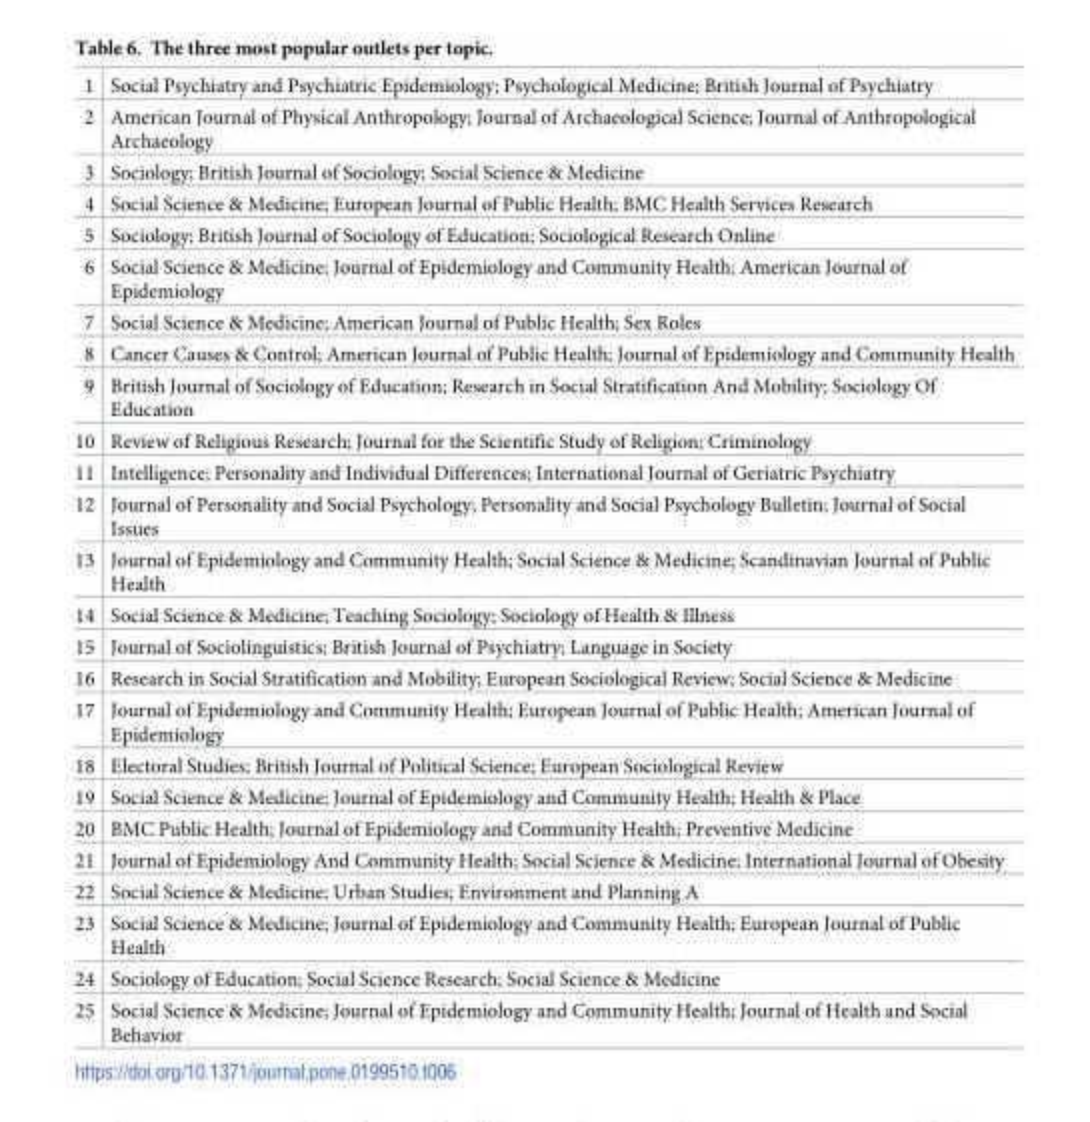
<table><tbody><tr><td>1</td><td>Social Psychiatry and Psychiatric Epidemiology; Psychological Medicine; British Journal of Psychiatry</td></tr><tr><td>2</td><td>American Journal of Physical Anthropology; Journal of Archaeological Science; Journal of Anthropological Archaeology</td></tr><tr><td>3</td><td>Sociology; British Journal of Sociology; Social Science &amp; Medicine</td></tr><tr><td>4</td><td>Social Science &amp; Medicine; European Journal of Public Health; BMC Health Services Research</td></tr><tr><td>5</td><td>Sociology; British Journal of Sociology of Education; Sociological Research Online</td></tr><tr><td>6</td><td>Social Science &amp; Medicine; Journal of Epidemiology and Community Health; American Journal of Epidemiology</td></tr><tr><td>7</td><td>Social Science &amp; Medicine; American Journal of Public Health; Sex Roles</td></tr><tr><td>8</td><td>Cancer Causes &amp; Control; American Journal of Public Health; Journal of Epidemiology and Community Health</td></tr><tr><td>9</td><td>British Journal of Sociology of Education; Research in Social Stratification And Mobility; Sociology Of Education</td></tr><tr><td>10</td><td>Review of Religious Research; Journal for the Scientific Study of Religion; Criminology</td></tr><tr><td>11</td><td>Intelligence; Personality and Individual Differences; International Journal of Geriatric Psychiatry</td></tr><tr><td>12</td><td>Journal of Personality and Social Psychology; Personality and Social Psychology Bulletin; Journal of Social Issues</td></tr><tr><td>13</td><td>Journal of Epidemiology and Community Health; Social Science &amp; Medicine; Scandinavian Journal of Public Health</td></tr><tr><td>14</td><td>Social Science &amp; Medicine; Teaching Sociology; Sociology of Health &amp; Illness</td></tr><tr><td>15</td><td>Journal of Sociolinguistics; British Journal of Psychiatry; Language in Society</td></tr><tr><td>16</td><td>Research in Social Stratification and Mobility; European Sociological Review; Social Science &amp; Medicine</td></tr><tr><td>17</td><td>Journal of Epidemiology and Community Health; European Journal of Public Health; American Journal of Epidemiology</td></tr><tr><td>18</td><td>Electoral Studies; British Journal of Political Science; European Sociological Review</td></tr><tr><td>19</td><td>Social Science &amp; Medicine; Journal of Epidemiology and Community Health; Health &amp; Place</td></tr><tr><td>20</td><td>BMC Public Health; Journal of Epidemiology and Community Health; Preventive Medicine</td></tr><tr><td>21</td><td>Journal of Epidemiology And Community Health; Social Science &amp; Medicine; International Journal of Obesity</td></tr><tr><td>22</td><td>Social Science &amp; Medicine; Urban Studies; Environment and Planning A</td></tr><tr><td>23</td><td>Social Science &amp; Medicine; Journal of Epidemiology and Community Health; European Journal of Public Health</td></tr><tr><td>24</td><td>Sociology of Education; Social Science Research; Social Science &amp; Medicine</td></tr><tr><td>25</td><td>Social Science &amp; Medicine; Journal of Epidemiology and Community Health; Journal of Health and Social Behavior</td></tr></tbody></table>